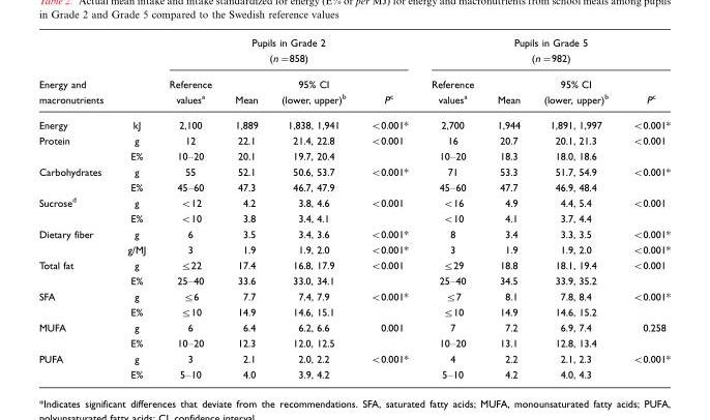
<table><thead><tr><td rowspan="2">Energy and macronutrients</td><td rowspan="2"></td><td colspan="4">Pupils in Grade 2 (n=858)</td><td colspan="4">Pupils in Grade 5 (n=982)</td></tr><tr><td>Reference values<sup>a</sup></td><td>Mean</td><td>95% CI (lower, upper)<sup>b</sup></td><td>Pc</td><td>Reference values<sup>a</sup></td><td>Mean</td><td>95% CI (lower, upper)<sup>b</sup></td><td>Pc</td></tr></thead><tbody><tr><td>Energy</td><td>kJ</td><td>2,100</td><td>1,889</td><td>1,838, 1,941</td><td>&lt;0.001*</td><td>2,700</td><td>1,944</td><td>1,891, 1,997</td><td>&lt;0.001*</td></tr><tr><td rowspan="2">Protein</td><td>g</td><td>12</td><td>22.1</td><td>21.4, 22.8</td><td>&lt;0.001</td><td>16</td><td>20.7</td><td>20.1, 21.3</td><td>&lt;0.001</td></tr><tr><td>E%</td><td>10–20</td><td>20.1</td><td>19.7, 20.4</td><td></td><td>10–20</td><td>18.3</td><td>18.0, 18.6</td><td></td></tr><tr><td rowspan="2">Carbohydrates</td><td>g</td><td>55</td><td>52.1</td><td>50.6, 53.7</td><td>&lt;0.001*</td><td>71</td><td>53.3</td><td>51.7, 54.9</td><td>&lt;0.001*</td></tr><tr><td>E%</td><td>45–60</td><td>47.3</td><td>46.7, 47.9</td><td></td><td>45–60</td><td>47.7</td><td>46.9, 48.4</td><td></td></tr><tr><td rowspan="2">Sucrose<sup>d</sup></td><td>g</td><td>&lt;12</td><td>4.2</td><td>3.8, 4.6</td><td>&lt;0.001</td><td>&lt;16</td><td>4.9</td><td>4.4, 5.4</td><td>&lt;0.001</td></tr><tr><td>E%</td><td>&lt;10</td><td>3.8</td><td>3.4, 4.1</td><td></td><td>&lt;10</td><td>4.1</td><td>3.7, 4.4</td><td></td></tr><tr><td rowspan="2">Dietary fiber</td><td>g</td><td>6</td><td>3.5</td><td>3.4, 3.6</td><td>&lt;0.001*</td><td>8</td><td>3.4</td><td>3.3, 3.5</td><td>&lt;0.001*</td></tr><tr><td>g/MJ</td><td>3</td><td>1.9</td><td>1.9, 2.0</td><td>&lt;0.001*</td><td>3</td><td>1.9</td><td>1.9, 2.0</td><td>&lt;0.001*</td></tr><tr><td rowspan="2">Total fat</td><td>g</td><td>≤22</td><td>17.4</td><td>16.8, 17.9</td><td>&lt;0.001</td><td>≤29</td><td>18.8</td><td>18.1, 19.4</td><td>&lt;0.001</td></tr><tr><td>E%</td><td>25–40</td><td>33.6</td><td>33.0, 34.1</td><td></td><td>25–40</td><td>34.5</td><td>33.9, 35.2</td><td></td></tr><tr><td rowspan="2">SFA</td><td>g</td><td>≤6</td><td>7.7</td><td>7.4, 7.9</td><td>&lt;0.001*</td><td>≤7</td><td>8.1</td><td>7.8, 8.4</td><td>&lt;0.001*</td></tr><tr><td>E%</td><td>≤10</td><td>14.9</td><td>14.6, 15.1</td><td></td><td>≤10</td><td>14.9</td><td>14.6, 15.2</td><td></td></tr><tr><td rowspan="2">MUFA</td><td>g</td><td>6</td><td>6.4</td><td>6.2, 6.6</td><td>0.001</td><td>7</td><td>7.2</td><td>6.9, 7.4</td><td>0.258</td></tr><tr><td>E%</td><td>10–20</td><td>12.3</td><td>12.0, 12.5</td><td></td><td>10–20</td><td>13.1</td><td>12.8, 13.4</td><td></td></tr><tr><td rowspan="2">PUFA</td><td>g</td><td>3</td><td>2.1</td><td>2.0, 2.2</td><td>&lt;0.001*</td><td>4</td><td>2.2</td><td>2.1, 2.3</td><td>&lt;0.001*</td></tr><tr><td>E%</td><td>5–10</td><td>4.0</td><td>3.9, 4.2</td><td></td><td>5–10</td><td>4.2</td><td>4.0, 4.3</td><td></td></tr></tbody></table>